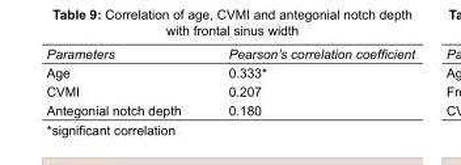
<table><tbody><tr><td>Parameters</td><td>Pearson’s correlation coefficient</td></tr><tr><td>Age</td><td>0.333*</td></tr><tr><td>CVMI</td><td>0.207</td></tr><tr><td>Antegonial notch depth</td><td>0.180</td></tr></tbody></table>